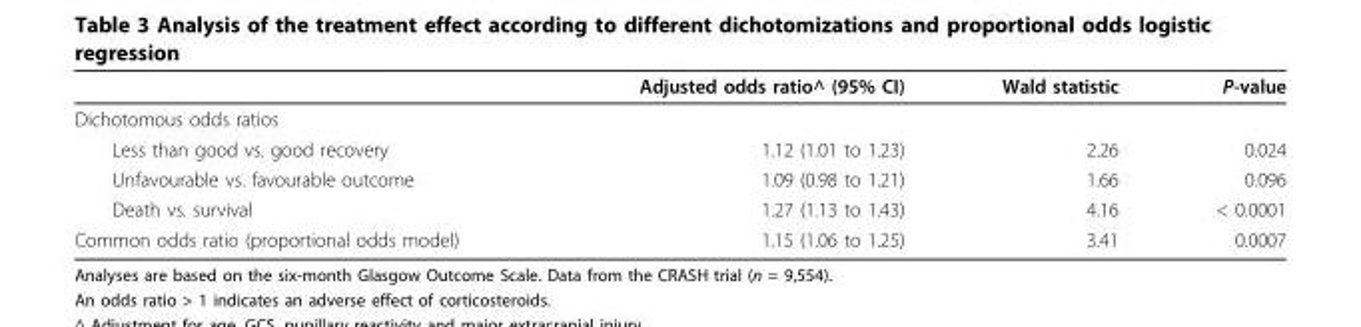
<table><thead><tr><td></td><td>Adjusted odds ratio^ (95% CI)</td><td>Wald statistic</td><td>P-value</td></tr></thead><tbody><tr><td colspan="4">Dichotomous odds ratios</td></tr><tr><td>Less than good vs. good recovery</td><td>1.12 (1.01 to 1.23)</td><td>2.26</td><td>0.024</td></tr><tr><td>Unfavourable vs. favourable outcome</td><td>1.09 (0.98 to 1.21)</td><td>1.66</td><td>0.096</td></tr><tr><td>Death vs. survival</td><td>1.27 (1.13 to 1.43)</td><td>4.16</td><td>&lt; 0.0001</td></tr><tr><td>Common odds ratio (proportional odds model)</td><td>1.15 (1.06 to 1.25)</td><td>3.41</td><td>0.0007</td></tr></tbody></table>